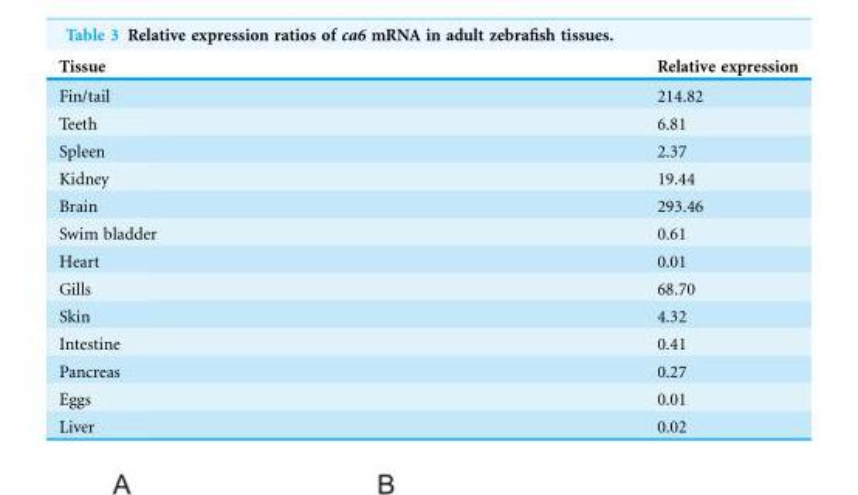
<table><thead><tr><td>Tissue</td><td>Relative expression</td></tr></thead><tbody><tr><td>Fin/tail</td><td>214.82</td></tr><tr><td>Teeth</td><td>6.81</td></tr><tr><td>Spleen</td><td>2.37</td></tr><tr><td>Kidney</td><td>19.44</td></tr><tr><td>Brain</td><td>293.46</td></tr><tr><td>Swim bladder</td><td>0.61</td></tr><tr><td>Heart</td><td>0.01</td></tr><tr><td>Gills</td><td>68.70</td></tr><tr><td>Skin</td><td>4.32</td></tr><tr><td>Intestine</td><td>0.41</td></tr><tr><td>Pancreas</td><td>0.27</td></tr><tr><td>Eggs</td><td>0.01</td></tr><tr><td>Liver</td><td>0.02</td></tr></tbody></table>